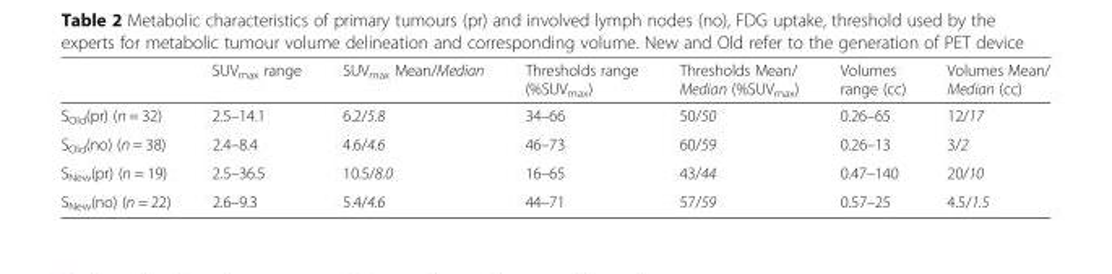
<table><thead><tr><td></td><td>SUV<sub>max</sub> range</td><td>SUV<sub>max</sub> Mean/Median</td><td>Thresholds range (%SUV<sub>max</sub>)</td><td>Thresholds Mean/ Median (%SUV<sub>max</sub>)</td><td>Volumes range (cc)</td><td>Volumes Mean/ Median (cc)</td></tr></thead><tbody><tr><td>S<sub>Old</sub>(pr) (n = 32)</td><td>2.5–14.1</td><td>6.2/5.8</td><td>34–66</td><td>50/50</td><td>0.26–65</td><td>12/17</td></tr><tr><td>S<sub>Old</sub>(no) (n = 38)</td><td>2.4–8.4</td><td>4.6/4.6</td><td>46–73</td><td>60/59</td><td>0.26–13</td><td>3/2</td></tr><tr><td>S<sub>New</sub>(pr) (n = 19)</td><td>2.5–36.5</td><td>10.5/8.0</td><td>16–65</td><td>43/44</td><td>0.47–140</td><td>20/10</td></tr><tr><td>S<sub>New</sub>(no) (n = 22)</td><td>2.6–9.3</td><td>5.4/4.6</td><td>44–71</td><td>57/59</td><td>0.57–25</td><td>4.5/1.5</td></tr></tbody></table>